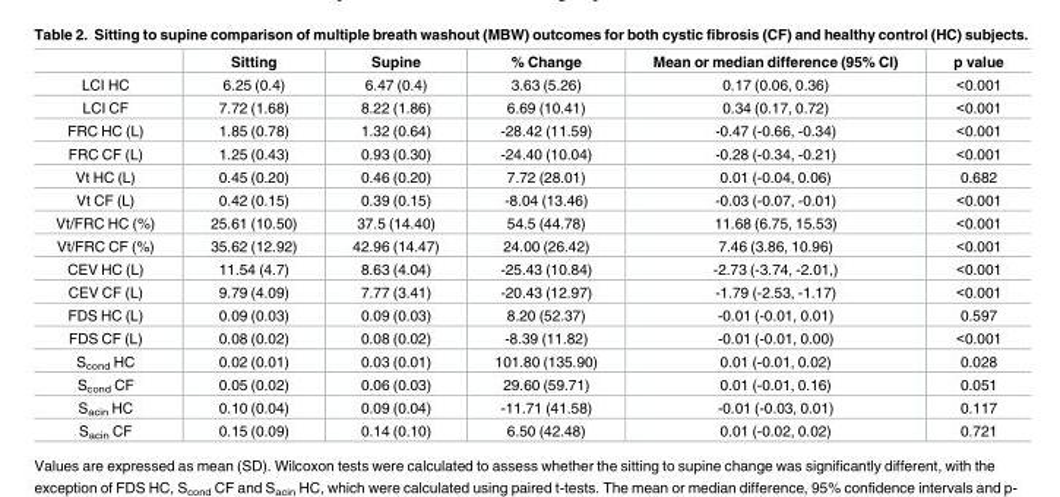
<table><thead><tr><td></td><td>Sitting</td><td>Supine</td><td>% Change</td><td>Mean or median difference (95% CI)</td><td>p value</td></tr></thead><tbody><tr><td>LCI HC</td><td>6.25 (0.4)</td><td>6.47 (0.4)</td><td>3.63 (5.26)</td><td>0.17 (0.06, 0.36)</td><td>&lt;0.001</td></tr><tr><td>LCI CF</td><td>7.72 (1.68)</td><td>8.22 (1.86)</td><td>6.69 (10.41)</td><td>0.34 (0.17, 0.72)</td><td>&lt;0.001</td></tr><tr><td>FRC HC (L)</td><td>1.85 (0.78)</td><td>1.32 (0.64)</td><td>-28.42 (11.59)</td><td>-0.47 (-0.66, -0.34)</td><td>&lt;0.001</td></tr><tr><td>FRC CF (L)</td><td>1.25 (0.43)</td><td>0.93 (0.30)</td><td>-24.40 (10.04)</td><td>-0.28 (-0.34, -0.21)</td><td>&lt;0.001</td></tr><tr><td>Vt HC (L)</td><td>0.45 (0.20)</td><td>0.46 (0.20)</td><td>7.72 (28.01)</td><td>0.01 (-0.04, 0.06)</td><td>0.682</td></tr><tr><td>Vt CF (L)</td><td>0.42 (0.15)</td><td>0.39 (0.15)</td><td>-8.04 (13.46)</td><td>-0.03 (-0.07, -0.01)</td><td>&lt;0.001</td></tr><tr><td>Vt/FRC HC (%)</td><td>25.61 (10.50)</td><td>37.5 (14.40)</td><td>54.5 (44.78)</td><td>11.68 (6.75, 15.53)</td><td>&lt;0.001</td></tr><tr><td>Vt/FRC CF (%)</td><td>35.62 (12.92)</td><td>42.96 (14.47)</td><td>24.00 (26.42)</td><td>7.46 (3.86, 10.96)</td><td>&lt;0.001</td></tr><tr><td>CEV HC (L)</td><td>11.54 (4.7)</td><td>8.63 (4.04)</td><td>-25.43 (10.84)</td><td>-2.73 (-3.74, -2.01,)</td><td>&lt;0.001</td></tr><tr><td>CEV CF (L)</td><td>9.79 (4.09)</td><td>7.77 (3.41)</td><td>-20.43 (12.97)</td><td>-1.79 (-2.53, -1.17)</td><td>&lt;0.001</td></tr><tr><td>FDS HC (L)</td><td>0.09 (0.03)</td><td>0.09 (0.03)</td><td>8.20 (52.37)</td><td>-0.01 (-0.01, 0.01)</td><td>0.597</td></tr><tr><td>FDS CF (L)</td><td>0.08 (0.02)</td><td>0.08 (0.02)</td><td>-8.39 (11.82)</td><td>-0.01 (-0.01, 0.00)</td><td>&lt;0.001</td></tr><tr><td>S<sub>cond</sub> HC</td><td>0.02 (0.01)</td><td>0.03 (0.01)</td><td>101.80 (135.90)</td><td>0.01 (-0.01, 0.02)</td><td>0.028</td></tr><tr><td>S<sub>cond</sub> CF</td><td>0.05 (0.02)</td><td>0.06 (0.03)</td><td>29.60 (59.71)</td><td>0.01 (-0.01, 0.16)</td><td>0.051</td></tr><tr><td>S<sub>acin</sub> HC</td><td>0.10 (0.04)</td><td>0.09 (0.04)</td><td>-11.71 (41.58)</td><td>-0.01 (-0.03, 0.01)</td><td>0.117</td></tr><tr><td>S<sub>acin</sub> CF</td><td>0.15 (0.09)</td><td>0.14 (0.10)</td><td>6.50 (42.48)</td><td>0.01 (-0.02, 0.02)</td><td>0.721</td></tr></tbody></table>